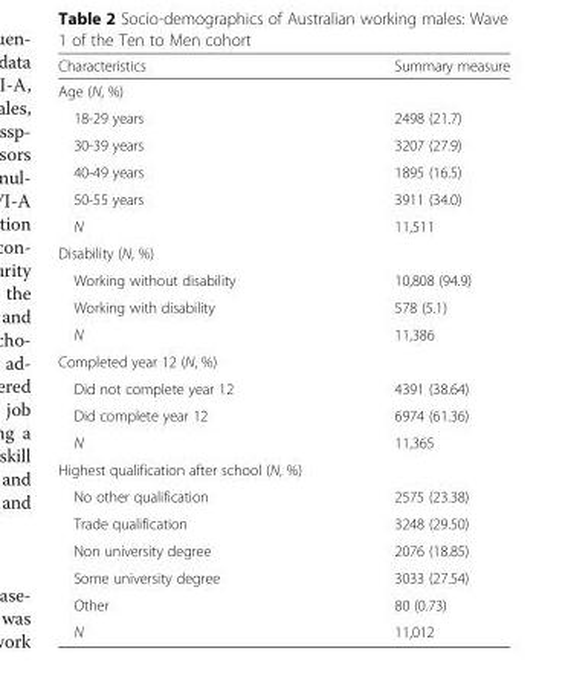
<table><thead><tr><td>Characteristics</td><td>Summary measure</td></tr></thead><tbody><tr><td colspan="2">Age (N, %)</td></tr><tr><td>18-29 years</td><td>2498 (21.7)</td></tr><tr><td>30-39 years</td><td>3207 (27.9)</td></tr><tr><td>40-49 years</td><td>1895 (16.5)</td></tr><tr><td>50-55 years</td><td>3911 (34.0)</td></tr><tr><td>N</td><td>11,511</td></tr><tr><td colspan="2">Disability (N, %)</td></tr><tr><td>Working without disability</td><td>10,808 (94.9)</td></tr><tr><td>Working with disability</td><td>578 (5.1)</td></tr><tr><td>N</td><td>11,386</td></tr><tr><td colspan="2">Completed year 12 (N, %)</td></tr><tr><td>Did not complete year 12</td><td>4391 (38.64)</td></tr><tr><td>Did complete year 12</td><td>6974 (61.36)</td></tr><tr><td>N</td><td>11,365</td></tr><tr><td colspan="2">Highest qualification after school (N, %)</td></tr><tr><td>No other qualification</td><td>2575 (23.38)</td></tr><tr><td>Trade qualification</td><td>3248 (29.50)</td></tr><tr><td>Non university degree</td><td>2076 (18.85)</td></tr><tr><td>Some university degree</td><td>3033 (27.54)</td></tr><tr><td>Other</td><td>80 (0.73)</td></tr><tr><td>N</td><td>11,012</td></tr></tbody></table>